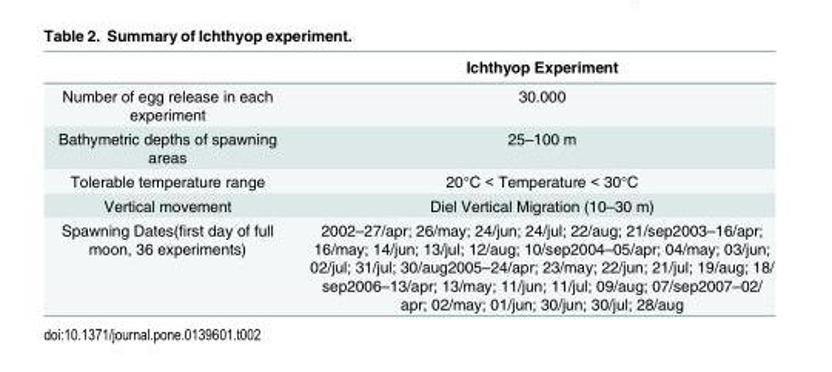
<table><thead><tr><td></td><td>Ichthyop Experiment</td></tr></thead><tbody><tr><td>Number of egg release in each experiment</td><td>30.000</td></tr><tr><td>Bathymetric depths of spawning areas</td><td>25–100 m</td></tr><tr><td>Tolerable temperature range</td><td>20°C &lt; Temperature &lt; 30°C</td></tr><tr><td>Vertical movement</td><td>Diel Vertical Migration (10–30 m)</td></tr><tr><td>Spawning Dates(first day of full moon, 36 experiments)</td><td>2002–27/apr; 26/may; 24/jun; 24/jul; 22/aug; 21/sep2003–16/apr; 16/may; 14/jun; 13/jul; 12/aug; 10/sep2004–05/apr; 04/may; 03/jun; 02/jul; 31/jul; 30/aug2005–24/apr; 23/may; 22/jun; 21/jul; 19/aug; 18/ sep2006–13/apr; 13/may; 11/jun; 11/jul; 09/aug; 07/sep2007–02/ apr; 02/may; 01/jun; 30/jun; 30/jul; 28/aug</td></tr></tbody></table>